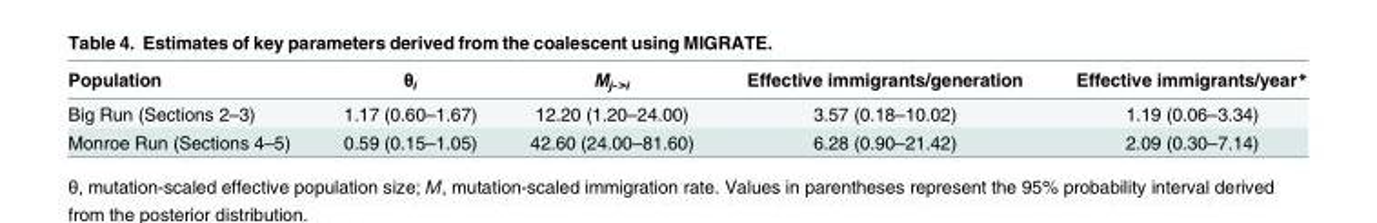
<table><thead><tr><td>Population</td><td>θ<sub>i</sub></td><td>Μ<sub>j-&gt;i</sub></td><td>Effective immigrants/generation</td><td>Effective immigrants/year*</td></tr></thead><tbody><tr><td>Big Run (Sections 2–3)</td><td>1.17 (0.60–1.67)</td><td>12.20 (1.20–24.00)</td><td>3.57 (0.18–10.02)</td><td>1.19 (0.06–3.34)</td></tr><tr><td>Monroe Run (Sections 4–5)</td><td>0.59 (0.15–1.05)</td><td>42.60 (24.00–81.60)</td><td>6.28 (0.90–21.42)</td><td>2.09 (0.30–7.14)</td></tr></tbody></table>